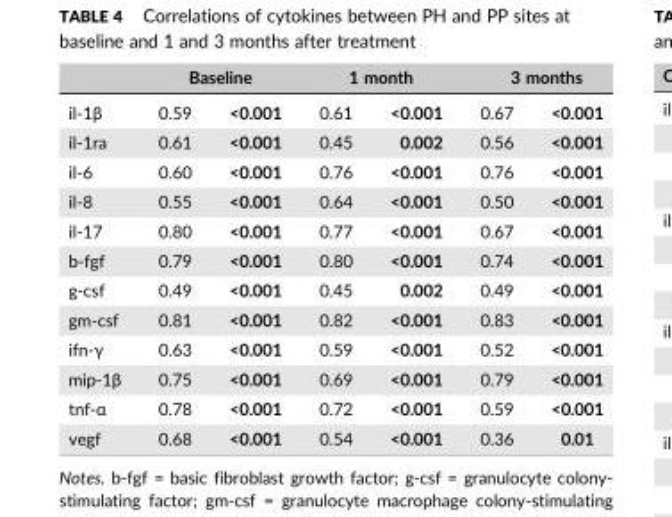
<table><thead><tr><td rowspan="2">il‐1β</td><td colspan="2">Baseline</td><td colspan="2">1 month</td><td colspan="2">3 months</td></tr><tr><td>0.59</td><td>&lt;0.001</td><td>0.61</td><td>&lt;0.001</td><td>0.67</td><td>&lt;0.001</td></tr></thead><tbody><tr><td>il‐1ra</td><td>0.61</td><td>&lt;0.001</td><td>0.45</td><td>0.002</td><td>0.56</td><td>&lt;0.001</td></tr><tr><td>il‐6</td><td>0.60</td><td>&lt;0.001</td><td>0.76</td><td>&lt;0.001</td><td>0.76</td><td>&lt;0.001</td></tr><tr><td>il‐8</td><td>0.55</td><td>&lt;0.001</td><td>0.64</td><td>&lt;0.001</td><td>0.50</td><td>&lt;0.001</td></tr><tr><td>il‐17</td><td>0.80</td><td>&lt;0.001</td><td>0.77</td><td>&lt;0.001</td><td>0.67</td><td>&lt;0.001</td></tr><tr><td>b‐fgf</td><td>0.79</td><td>&lt;0.001</td><td>0.80</td><td>&lt;0.001</td><td>0.74</td><td>&lt;0.001</td></tr><tr><td>g‐csf</td><td>0.49</td><td>&lt;0.001</td><td>0.45</td><td>0.002</td><td>0.49</td><td>&lt;0.001</td></tr><tr><td>gm‐csf</td><td>0.81</td><td>&lt;0.001</td><td>0.82</td><td>&lt;0.001</td><td>0.83</td><td>&lt;0.001</td></tr><tr><td>ifn‐γ</td><td>0.63</td><td>&lt;0.001</td><td>0.59</td><td>&lt;0.001</td><td>0.52</td><td>&lt;0.001</td></tr><tr><td>mip‐1β</td><td>0.75</td><td>&lt;0.001</td><td>0.69</td><td>&lt;0.001</td><td>0.79</td><td>&lt;0.001</td></tr><tr><td>tnf‐α</td><td>0.78</td><td>&lt;0.001</td><td>0.72</td><td>&lt;0.001</td><td>0.59</td><td>&lt;0.001</td></tr><tr><td>vegf</td><td>0.68</td><td>&lt;0.001</td><td>0.54</td><td>&lt;0.001</td><td>0.36</td><td>0.01</td></tr></tbody></table>